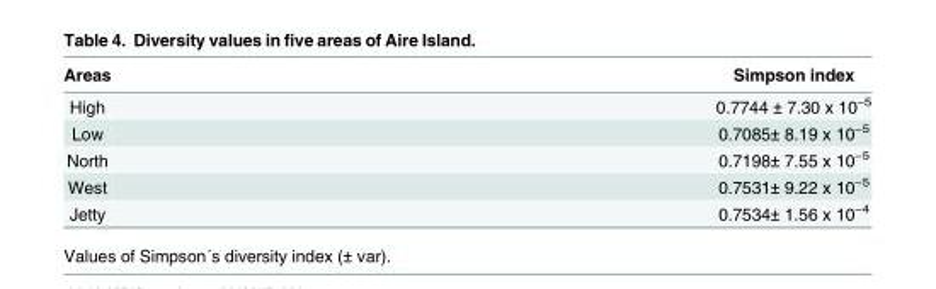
<table><thead><tr><td>Areas</td><td>Simpson index</td></tr></thead><tbody><tr><td>High</td><td>0.7744 ± 7.30 x 10<sup>−5</sup></td></tr><tr><td>Low</td><td>0.7085± 8.19 x 10<sup>−5</sup></td></tr><tr><td>North</td><td>0.7198± 7.55 x 10<sup>−5</sup></td></tr><tr><td>West</td><td>0.7531± 9.22 x 10<sup>−5</sup></td></tr><tr><td>Jetty</td><td>0.7534± 1.56 x 10<sup>−4</sup></td></tr></tbody></table>